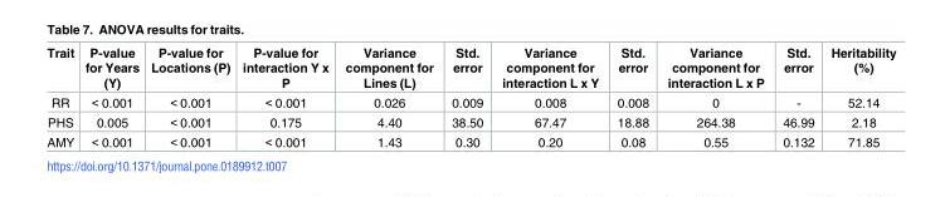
<table><thead><tr><td>Trait</td><td>P-value for Years (Y)</td><td>P-value for Locations (P)</td><td>P-value for interaction Y x P</td><td>Variance component for Lines (L)</td><td>Std. error</td><td>Variance component for interaction L x Y</td><td>Std. error</td><td>Variance component for interaction L x P</td><td>Std. error</td><td>Heritability (%)</td></tr></thead><tbody><tr><td>RR</td><td>&lt; 0.001</td><td>&lt; 0.001</td><td>&lt; 0.001</td><td>0.026</td><td>0.009</td><td>0.008</td><td>0.008</td><td>0</td><td>-</td><td>52.14</td></tr><tr><td>PHS</td><td>0.005</td><td>&lt; 0.001</td><td>0.175</td><td>4.40</td><td>38.50</td><td>67.47</td><td>18.88</td><td>264.38</td><td>46.99</td><td>2.18</td></tr><tr><td>AMY</td><td>&lt; 0.001</td><td>&lt; 0.001</td><td>&lt; 0.001</td><td>1.43</td><td>0.30</td><td>0.20</td><td>0.08</td><td>0.55</td><td>0.132</td><td>71.85</td></tr></tbody></table>